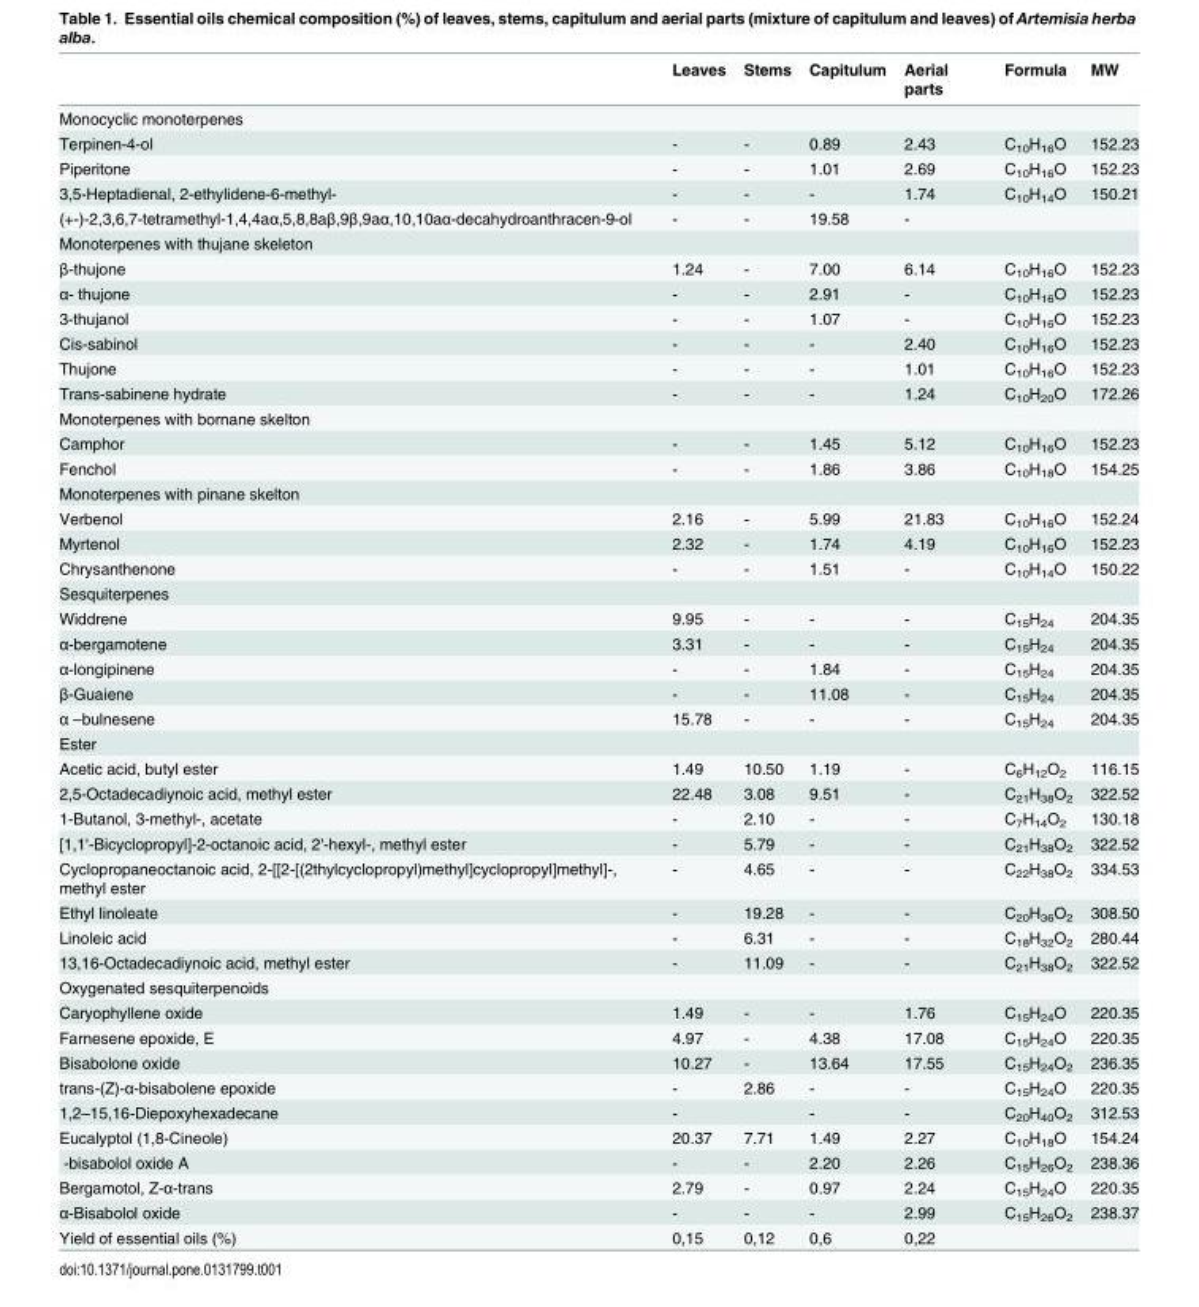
<table><thead><tr><td></td><td>Leaves</td><td>Stems</td><td>Capitulum</td><td>Aerial parts</td><td>Formula</td><td>MW</td></tr></thead><tbody><tr><td colspan="7">Monocyclic monoterpenes</td></tr><tr><td>Terpinen-4-ol</td><td>-</td><td>-</td><td>0.89</td><td>2.43</td><td>C<sub>10</sub>H<sub>16</sub>O</td><td>152.23</td></tr><tr><td>Piperitone</td><td>-</td><td>-</td><td>1.01</td><td>2.69</td><td>C<sub>10</sub>H<sub>16</sub>O</td><td>152.23</td></tr><tr><td>3,5-Heptadienal, 2-ethylidene-6-methyl-</td><td>-</td><td>-</td><td>-</td><td>1.74</td><td>C<sub>10</sub>H<sub>14</sub>O</td><td>150.21</td></tr><tr><td>(+-)-2,3,6,7-tetramethyl-1,4,4aα,5,8,8aβ,9β,9aα,10,10aα-decahydroanthracen-9-ol</td><td>-</td><td>-</td><td>19.58</td><td>-</td><td></td><td></td></tr><tr><td colspan="7">Monoterpenes with thujane skeleton</td></tr><tr><td>β-thujone</td><td>1.24</td><td>-</td><td>7.00</td><td>6.14</td><td>C<sub>10</sub>H<sub>16</sub>O</td><td>152.23</td></tr><tr><td>α- thujone</td><td>-</td><td>-</td><td>2.91</td><td>-</td><td>C<sub>10</sub>H<sub>16</sub>O</td><td>152.23</td></tr><tr><td>3-thujanol</td><td>-</td><td>-</td><td>1.07</td><td>-</td><td>C<sub>10</sub>H<sub>16</sub>O</td><td>152.23</td></tr><tr><td>Cis-sabinol</td><td>-</td><td>-</td><td>-</td><td>2.40</td><td>C<sub>10</sub>H<sub>16</sub>O</td><td>152.23</td></tr><tr><td>Thujone</td><td>-</td><td>-</td><td>-</td><td>1.01</td><td>C<sub>10</sub>H<sub>16</sub>O</td><td>152.23</td></tr><tr><td>Trans-sabinene hydrate</td><td>-</td><td>-</td><td>-</td><td>1.24</td><td>C<sub>10</sub>H<sub>20</sub>O</td><td>172.26</td></tr><tr><td colspan="7">Monoterpenes with bornane skelton</td></tr><tr><td>Camphor</td><td>-</td><td>-</td><td>1.45</td><td>5.12</td><td>C<sub>10</sub>H<sub>16</sub>O</td><td>152.23</td></tr><tr><td>Fenchol</td><td>-</td><td>-</td><td>1.86</td><td>3.86</td><td>C<sub>10</sub>H<sub>18</sub>O</td><td>154.25</td></tr><tr><td colspan="7">Monoterpenes with pinane skelton</td></tr><tr><td>Verbenol</td><td>2.16</td><td>-</td><td>5.99</td><td>21.83</td><td>C<sub>10</sub>H<sub>16</sub>O</td><td>152.24</td></tr><tr><td>Myrtenol</td><td>2.32</td><td>-</td><td>1.74</td><td>4.19</td><td>C<sub>10</sub>H<sub>16</sub>O</td><td>152.23</td></tr><tr><td>Chrysanthenone</td><td>-</td><td>-</td><td>1.51</td><td>-</td><td>C<sub>10</sub>H<sub>14</sub>O</td><td>150.22</td></tr><tr><td colspan="7">Sesquiterpenes</td></tr><tr><td>Widdrene</td><td>9.95</td><td>-</td><td>-</td><td>-</td><td>C<sub>15</sub>H<sub>24</sub></td><td>204.35</td></tr><tr><td>α-bergamotene</td><td>3.31</td><td>-</td><td>-</td><td>-</td><td>C<sub>15</sub>H<sub>24</sub></td><td>204.35</td></tr><tr><td>α-longipinene</td><td>-</td><td>-</td><td>1.84</td><td>-</td><td>C<sub>15</sub>H<sub>24</sub></td><td>204.35</td></tr><tr><td>β-Guaiene</td><td>-</td><td>-</td><td>11.08</td><td>-</td><td>C<sub>15</sub>H<sub>24</sub></td><td>204.35</td></tr><tr><td>α –bulnesene</td><td>15.78</td><td>-</td><td>-</td><td>-</td><td>C<sub>15</sub>H<sub>24</sub></td><td>204.35</td></tr><tr><td colspan="7">Ester</td></tr><tr><td>Acetic acid, butyl ester</td><td>1.49</td><td>10.50</td><td>1.19</td><td>-</td><td>C<sub>6</sub>H<sub>12</sub>O<sub>2</sub></td><td>116.15</td></tr><tr><td>2,5-Octadecadiynoic acid, methyl ester</td><td>22.48</td><td>3.08</td><td>9.51</td><td>-</td><td>C<sub>21</sub>H<sub>38</sub>O<sub>2</sub></td><td>322.52</td></tr><tr><td>1-Butanol, 3-methyl-, acetate</td><td>-</td><td>2.10</td><td>-</td><td>-</td><td>C<sub>7</sub>H<sub>14</sub>O<sub>2</sub></td><td>130.18</td></tr><tr><td>[1,1&#x27;-Bicyclopropyl]-2-octanoic acid, 2&#x27;-hexyl-, methyl ester</td><td>-</td><td>5.79</td><td>-</td><td>-</td><td>C<sub>21</sub>H<sub>38</sub>O<sub>2</sub></td><td>322.52</td></tr><tr><td>Cyclopropaneoctanoic acid, 2-[[2-[(2thylcyclopropyl)methyl]cyclopropyl]methyl]-, methyl ester</td><td>-</td><td>4.65</td><td>-</td><td>-</td><td>C<sub>22</sub>H<sub>38</sub>O<sub>2</sub></td><td>334.53</td></tr><tr><td>Ethyl linoleate</td><td>-</td><td>19.28</td><td>-</td><td>-</td><td>C<sub>20</sub>H<sub>36</sub>O<sub>2</sub></td><td>308.50</td></tr><tr><td>Linoleic acid</td><td>-</td><td>6.31</td><td>-</td><td>-</td><td>C<sub>18</sub>H<sub>32</sub>O<sub>2</sub></td><td>280.44</td></tr><tr><td>13,16-Octadecadiynoic acid, methyl ester</td><td>-</td><td>11.09</td><td>-</td><td>-</td><td>C<sub>21</sub>H<sub>38</sub>O<sub>2</sub></td><td>322.52</td></tr><tr><td colspan="7">Oxygenated sesquiterpenoids</td></tr><tr><td>Caryophyllene oxide</td><td>1.49</td><td>-</td><td>-</td><td>1.76</td><td>C<sub>15</sub>H<sub>24</sub>O</td><td>220.35</td></tr><tr><td>Farnesene epoxide, E</td><td>4.97</td><td>-</td><td>4.38</td><td>17.08</td><td>C<sub>15</sub>H<sub>24</sub>O</td><td>220.35</td></tr><tr><td>Bisabolone oxide</td><td>10.27</td><td>-</td><td>13.64</td><td>17.55</td><td>C<sub>15</sub>H<sub>24</sub>O<sub>2</sub></td><td>236.35</td></tr><tr><td>trans-(Z)-α-bisabolene epoxide</td><td>-</td><td>2.86</td><td>-</td><td>-</td><td>C<sub>15</sub>H<sub>24</sub>O</td><td>220.35</td></tr><tr><td>1,2–15,16-Diepoxyhexadecane</td><td>-</td><td></td><td>-</td><td>-</td><td>C<sub>20</sub>H<sub>40</sub>O<sub>2</sub></td><td>312.53</td></tr><tr><td>Eucalyptol (1,8-Cineole)</td><td>20.37</td><td>7.71</td><td>1.49</td><td>2.27</td><td>C<sub>10</sub>H<sub>18</sub>O</td><td>154.24</td></tr><tr><td>Α-bisabolol oxide A</td><td>-</td><td>-</td><td>2.20</td><td>2.26</td><td>C<sub>15</sub>H<sub>26</sub>O<sub>2</sub></td><td>238.36</td></tr><tr><td>Bergamotol, Z-α-trans</td><td>2.79</td><td>-</td><td>0.97</td><td>2.24</td><td>C<sub>15</sub>H<sub>24</sub>O</td><td>220.35</td></tr><tr><td>α-Bisabolol oxide</td><td>-</td><td>-</td><td>-</td><td>2.99</td><td>C<sub>15</sub>H<sub>26</sub>O<sub>2</sub></td><td>238.37</td></tr><tr><td>Yield of essential oils (%)</td><td>0,15</td><td>0,12</td><td>0,6</td><td>0,22</td><td></td><td></td></tr></tbody></table>